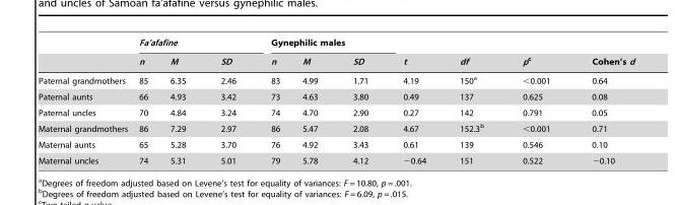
<table><thead><tr><td rowspan="2"></td><td colspan="3">Fa’afafine</td><td colspan="3">Gynephilic males</td><td rowspan="2">t</td><td rowspan="2">df</td><td rowspan="2">pc</td><td rowspan="2">Cohen’s d</td></tr><tr><td>n</td><td>M</td><td>SD</td><td>n</td><td>M</td><td>SD</td></tr></thead><tbody><tr><td>Paternal grandmothers</td><td>85</td><td>6.35</td><td>2.46</td><td>83</td><td>4.99</td><td>1.71</td><td>4.19</td><td>150<sup>a</sup></td><td>&lt;0.001</td><td>0.64</td></tr><tr><td>Paternal aunts</td><td>66</td><td>4.93</td><td>3.42</td><td>73</td><td>4.63</td><td>3.80</td><td>0.49</td><td>137</td><td>0.625</td><td>0.08</td></tr><tr><td>Paternal uncles</td><td>70</td><td>4.84</td><td>3.24</td><td>74</td><td>4.70</td><td>2.90</td><td>0.27</td><td>142</td><td>0.791</td><td>0.05</td></tr><tr><td>Maternal grandmothers</td><td>86</td><td>7.29</td><td>2.97</td><td>86</td><td>5.47</td><td>2.08</td><td>4.67</td><td>152.3<sup>b</sup></td><td>&lt;0.001</td><td>0.71</td></tr><tr><td>Maternal aunts</td><td>65</td><td>5.28</td><td>3.70</td><td>76</td><td>4.92</td><td>3.43</td><td>0.61</td><td>139</td><td>0.546</td><td>0.10</td></tr><tr><td>Maternal uncles</td><td>74</td><td>5.31</td><td>5.01</td><td>79</td><td>5.78</td><td>4.12</td><td>−0.64</td><td>151</td><td>0.522</td><td>−0.10</td></tr></tbody></table>